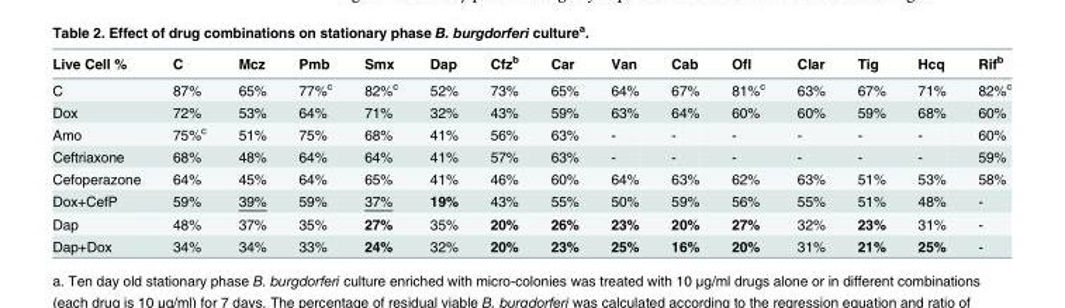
<table><thead><tr><td>Live Cell %</td><td>C</td><td>Mcz</td><td>Pmb</td><td>Smx</td><td>Dap</td><td>Cfz<sup>b</sup></td><td>Car</td><td>Van</td><td>Cab</td><td>Ofl</td><td>Clar</td><td>Tig</td><td>Hcq</td><td>Rif<sup>b</sup></td></tr></thead><tbody><tr><td>C</td><td>87%</td><td>65%</td><td>77%<sup>c</sup></td><td>82%<sup>c</sup></td><td>52%</td><td>73%</td><td>65%</td><td>64%</td><td>67%</td><td>81%<sup>c</sup></td><td>63%</td><td>67%</td><td>71%</td><td>82%<sup>c</sup></td></tr><tr><td>Dox</td><td>72%</td><td>53%</td><td>64%</td><td>71%</td><td>32%</td><td>43%</td><td>59%</td><td>63%</td><td>64%</td><td>60%</td><td>60%</td><td>59%</td><td>68%</td><td>60%</td></tr><tr><td>Amo</td><td>75%<sup>c</sup></td><td>51%</td><td>75%</td><td>68%</td><td>41%</td><td>56%</td><td>63%</td><td>-</td><td>-</td><td>-</td><td>-</td><td>-</td><td>-</td><td>60%</td></tr><tr><td>Ceftriaxone</td><td>68%</td><td>48%</td><td>64%</td><td>64%</td><td>41%</td><td>57%</td><td>63%</td><td>-</td><td>-</td><td>-</td><td>-</td><td>-</td><td>-</td><td>59%</td></tr><tr><td>Cefoperazone</td><td>64%</td><td>45%</td><td>64%</td><td>65%</td><td>41%</td><td>46%</td><td>60%</td><td>64%</td><td>63%</td><td>62%</td><td>63%</td><td>51%</td><td>53%</td><td>58%</td></tr><tr><td>Dox+CefP</td><td>59%</td><td>39%</td><td>59%</td><td>37%</td><td>19%</td><td>43%</td><td>55%</td><td>50%</td><td>59%</td><td>56%</td><td>55%</td><td>51%</td><td>48%</td><td>-</td></tr><tr><td>Dap</td><td>48%</td><td>37%</td><td>35%</td><td>27%</td><td>35%</td><td>20%</td><td>26%</td><td>23%</td><td>20%</td><td>27%</td><td>32%</td><td>23%</td><td>31%</td><td>-</td></tr><tr><td>Dap+Dox</td><td>34%</td><td>34%</td><td>33%</td><td>24%</td><td>32%</td><td>20%</td><td>23%</td><td>25%</td><td>16%</td><td>20%</td><td>31%</td><td>21%</td><td>25%</td><td>-</td></tr></tbody></table>